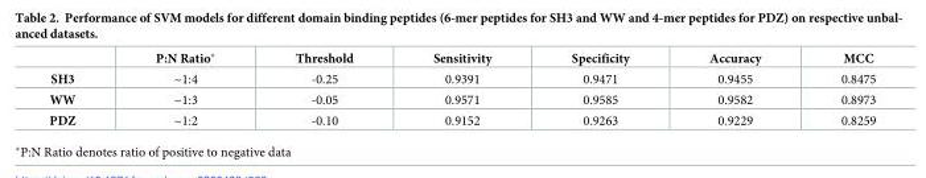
<table><thead><tr><td></td><td>P:N Ratio*</td><td>Threshold</td><td>Sensitivity</td><td>Specificity</td><td>Accuracy</td><td>MCC</td></tr></thead><tbody><tr><td>SH3</td><td>~1:4</td><td>-0.25</td><td>0.9391</td><td>0.9471</td><td>0.9455</td><td>0.8475</td></tr><tr><td>WW</td><td>~1:3</td><td>-0.05</td><td>0.9571</td><td>0.9585</td><td>0.9582</td><td>0.8973</td></tr><tr><td>PDZ</td><td>~1:2</td><td>-0.10</td><td>0.9152</td><td>0.9263</td><td>0.9229</td><td>0.8259</td></tr></tbody></table>